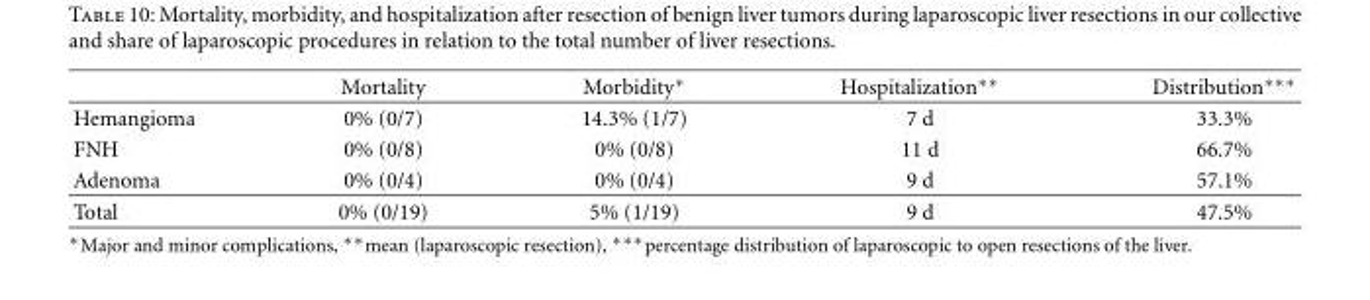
<table><thead><tr><td></td><td>Mortality</td><td>Morbidity∗</td><td>Hospitalization∗∗</td><td>Distribution∗∗∗</td></tr></thead><tbody><tr><td>Hemangioma</td><td>0% (0/7)</td><td>14.3% (1/7)</td><td>7 d</td><td>33.3%</td></tr><tr><td>FNH</td><td>0% (0/8)</td><td>0% (0/8)</td><td>11 d</td><td>66.7%</td></tr><tr><td>Adenoma</td><td>0% (0/4)</td><td>0% (0/4)</td><td>9 d</td><td>57.1%</td></tr><tr><td>Total</td><td>0% (0/19)</td><td>5% (1/19)</td><td>9 d</td><td>47.5%</td></tr></tbody></table>